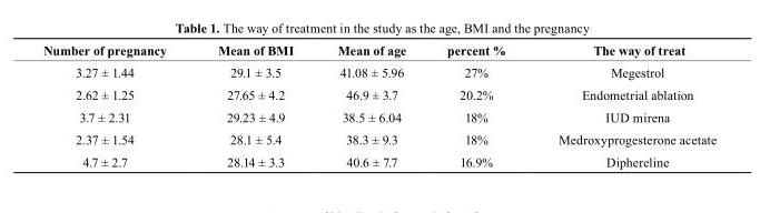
<table><thead><tr><td>Number of pregnancy</td><td>Mean of BMI</td><td>Mean of age</td><td>percent %</td><td>The way of treat</td></tr></thead><tbody><tr><td>3.27 ± 1.44</td><td>29.1 ± 3.5</td><td>41.08 ± 5.96</td><td>27%</td><td>Megestrol</td></tr><tr><td>2.62 ± 1.25</td><td>27.65 ± 4.2</td><td>46.9 ± 3.7</td><td>20.2%</td><td>Endometrial ablation</td></tr><tr><td>3.7 ± 2.31</td><td>29.23 ± 4.9</td><td>38.5 ± 6.04</td><td>18%</td><td>IUD mirena</td></tr><tr><td>2.37 ± 1.54</td><td>28.1 ± 5.4</td><td>38.3 ± 9.3</td><td>18%</td><td>Medroxyprogesterone acetate</td></tr><tr><td>4.7 ± 2.7</td><td>28.14 ± 3.3</td><td>40.6 ± 7.7</td><td>16.9%</td><td>Diphereline</td></tr></tbody></table>